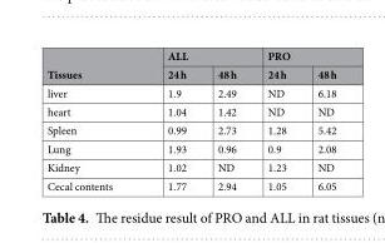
<table><thead><tr><td rowspan="2">Tissues</td><td colspan="2">ALL</td><td colspan="2">PRO</td></tr><tr><td>24 h</td><td>48 h</td><td>24 h</td><td>48 h</td></tr></thead><tbody><tr><td>liver</td><td>1.9</td><td>2.49</td><td>ND</td><td>6.18</td></tr><tr><td>heart</td><td>1.04</td><td>1.42</td><td>ND</td><td>ND</td></tr><tr><td>Spleen</td><td>0.99</td><td>2.73</td><td>1.28</td><td>5.42</td></tr><tr><td>Lung</td><td>1.93</td><td>0.96</td><td>0.9</td><td>2.08</td></tr><tr><td>Kidney</td><td>1.02</td><td>ND</td><td>1.23</td><td>ND</td></tr><tr><td>Cecal contents</td><td>1.77</td><td>2.94</td><td>1.05</td><td>6.05</td></tr></tbody></table>